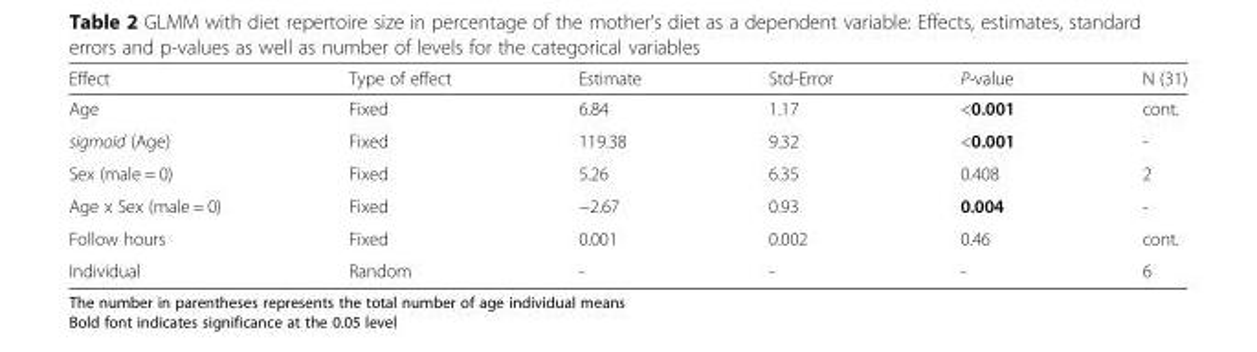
<table><thead><tr><td>Effect</td><td>Type of effect</td><td>Estimate</td><td>Std-Error</td><td>P-value</td><td>N (31)</td></tr></thead><tbody><tr><td>Age</td><td>Fixed</td><td>6.84</td><td>1.17</td><td>&lt;0.001</td><td>cont.</td></tr><tr><td>sigmoid (Age)</td><td>Fixed</td><td>119.38</td><td>9.32</td><td>&lt;0.001</td><td>-</td></tr><tr><td>Sex (male = 0)</td><td>Fixed</td><td>5.26</td><td>6.35</td><td>0.408</td><td>2</td></tr><tr><td>Age x Sex (male = 0)</td><td>Fixed</td><td>−2.67</td><td>0.93</td><td>0.004</td><td>-</td></tr><tr><td>Follow hours</td><td>Fixed</td><td>0.001</td><td>0.002</td><td>0.46</td><td>cont.</td></tr><tr><td>Individual</td><td>Random</td><td>-</td><td>-</td><td>-</td><td>6</td></tr></tbody></table>